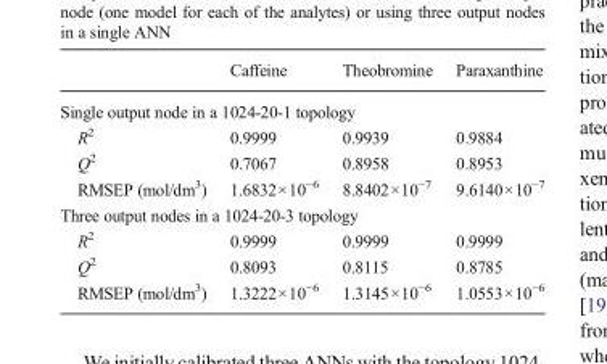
<table><thead><tr><td></td><td>Caffeine</td><td>Theobromine</td><td>Paraxanthine</td></tr></thead><tbody><tr><td colspan="4">Single output node in a 1024-20-1 topology</td></tr><tr><td>R<sup>2</sup></td><td>0.9999</td><td>0.9939</td><td>0.9884</td></tr><tr><td>Q<sup>2</sup></td><td>0.7067</td><td>0.8958</td><td>0.8953</td></tr><tr><td>RMSEP (mol/dm<sup>3</sup>)</td><td>1.6832×10<sup>−6</sup></td><td>8.8402×10<sup>−7</sup></td><td>9.6140×10<sup>−7</sup></td></tr><tr><td colspan="4">Three output nodes in a 1024-20-3 topology</td></tr><tr><td>R<sup>2</sup></td><td>0.9999</td><td>0.9999</td><td>0.9999</td></tr><tr><td>Q<sup>2</sup></td><td>0.8093</td><td>0.8115</td><td>0.8785</td></tr><tr><td>RMSEP (mol/dm<sup>3</sup>)</td><td>1.3222×10<sup>−6</sup></td><td>1.3145×10<sup>−6</sup></td><td>1.0553×10<sup>−6</sup></td></tr></tbody></table>